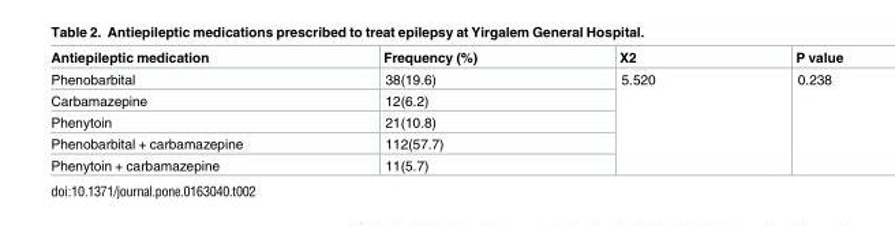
<table><thead><tr><td>Antiepileptic medication</td><td>Frequency (%)</td><td>X2</td><td>P value</td></tr></thead><tbody><tr><td>Phenobarbital</td><td>38(19.6)</td><td rowspan="5">5.520</td><td rowspan="5">0.238</td></tr><tr><td>Carbamazepine</td><td>12(6.2)</td></tr><tr><td>Phenytoin</td><td>21(10.8)</td></tr><tr><td>Phenobarbital + carbamazepine</td><td>112(57.7)</td></tr><tr><td>Phenytoin + carbamazepine</td><td>11(5.7)</td></tr></tbody></table>